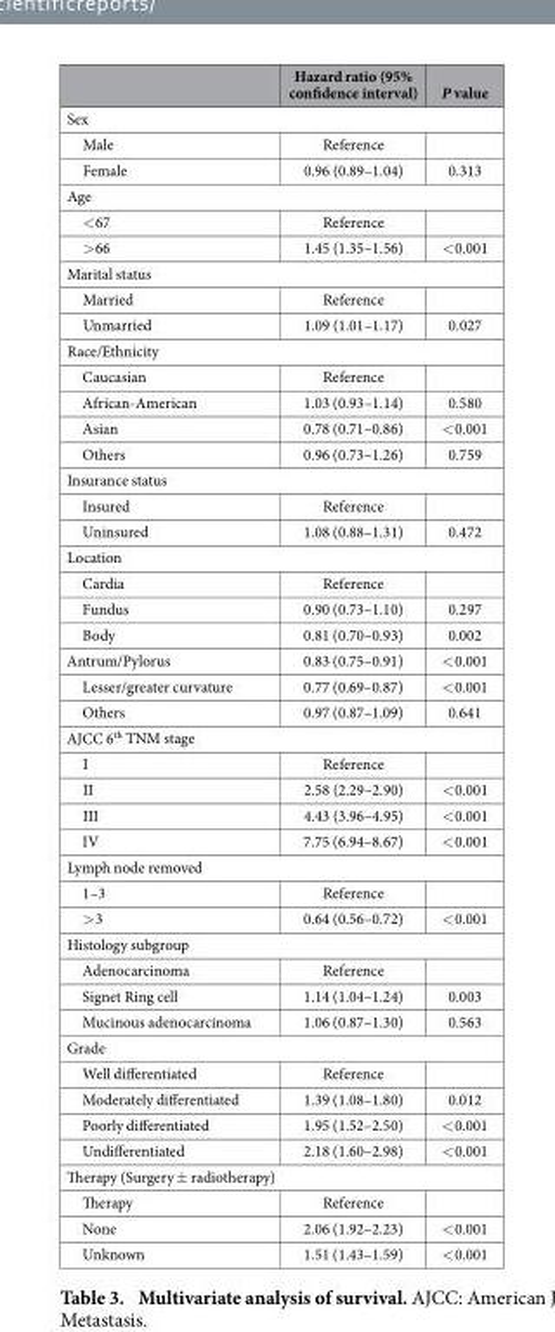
<table><thead><tr><td></td><td>Hazard ratio (95% confidence interval)</td><td>P value</td></tr></thead><tbody><tr><td colspan="3">Sex</td></tr><tr><td>Male</td><td>Reference</td><td></td></tr><tr><td>Female</td><td>0.96 (0.89–1.04)</td><td>0.313</td></tr><tr><td colspan="3">Age</td></tr><tr><td>&lt; 67</td><td>Reference</td><td></td></tr><tr><td>&gt; 66</td><td>1.45 (1.35–1.56)</td><td>&lt; 0.001</td></tr><tr><td colspan="3">Marital status</td></tr><tr><td>Married</td><td>Reference</td><td></td></tr><tr><td>Unmarried</td><td>1.09 (1.01–1.17)</td><td>0.027</td></tr><tr><td colspan="3">Race/Ethnicity</td></tr><tr><td>Caucasian</td><td>Reference</td><td></td></tr><tr><td>African-American</td><td>1.03 (0.93–1.14)</td><td>0.580</td></tr><tr><td>Asian</td><td>0.78 (0.71–0.86)</td><td>&lt; 0.001</td></tr><tr><td>Others</td><td>0.96 (0.73–1.26)</td><td>0.759</td></tr><tr><td colspan="3">Insurance status</td></tr><tr><td>Insured</td><td>Reference</td><td></td></tr><tr><td>Uninsured</td><td>1.08 (0.88–1.31)</td><td>0.472</td></tr><tr><td colspan="3">Location</td></tr><tr><td>Cardia</td><td>Reference</td><td></td></tr><tr><td>Fundus</td><td>0.90 (0.73–1.10)</td><td>0.297</td></tr><tr><td>Body</td><td>0.81 (0.70–0.93)</td><td>0.002</td></tr><tr><td>Antrum/Pylorus</td><td>0.83 (0.75–0.91)</td><td>&lt; 0.001</td></tr><tr><td>Lesser/greater curvature</td><td>0.77 (0.69–0.87)</td><td>&lt; 0.001</td></tr><tr><td>Others</td><td>0.97 (0.87–1.09)</td><td>0.641</td></tr><tr><td colspan="3">AJCC 6<sup>th</sup> TNM stage</td></tr><tr><td>I</td><td>Reference</td><td></td></tr><tr><td>II</td><td>2.58 (2.29–2.90)</td><td>&lt; 0.001</td></tr><tr><td>III</td><td>4.43 (3.96–4.95)</td><td>&lt; 0.001</td></tr><tr><td>IV</td><td>7.75 (6.94–8.67)</td><td>&lt; 0.001</td></tr><tr><td colspan="3">Lymph node removed</td></tr><tr><td>1–3</td><td>Reference</td><td></td></tr><tr><td>&gt; 3</td><td>0.64 (0.56–0.72)</td><td>&lt; 0.001</td></tr><tr><td colspan="3">Histology subgroup</td></tr><tr><td>Adenocarcinoma</td><td>Reference</td><td></td></tr><tr><td>Signet Ring cell</td><td>1.14 (1.04–1.24)</td><td>0.003</td></tr><tr><td>Mucinous adenocarcinoma</td><td>1.06 (0.87–1.30)</td><td>0.563</td></tr><tr><td colspan="3">Grade</td></tr><tr><td>Well differentiated</td><td>Reference</td><td></td></tr><tr><td>Moderately differentiated</td><td>1.39 (1.08–1.80)</td><td>0.012</td></tr><tr><td>Poorly differentiated</td><td>1.95 (1.52–2.50)</td><td>&lt; 0.001</td></tr><tr><td>Undifferentiated</td><td>2.18 (1.60–2.98)</td><td>&lt; 0.001</td></tr><tr><td colspan="3">Therapy (Surgery ± radiotherapy)</td></tr><tr><td>Therapy</td><td>Reference</td><td></td></tr><tr><td>None</td><td>2.06 (1.92–2.23)</td><td>&lt; 0.001</td></tr><tr><td>Unknown</td><td>1.51 (1.43–1.59)</td><td>&lt; 0.001</td></tr></tbody></table>